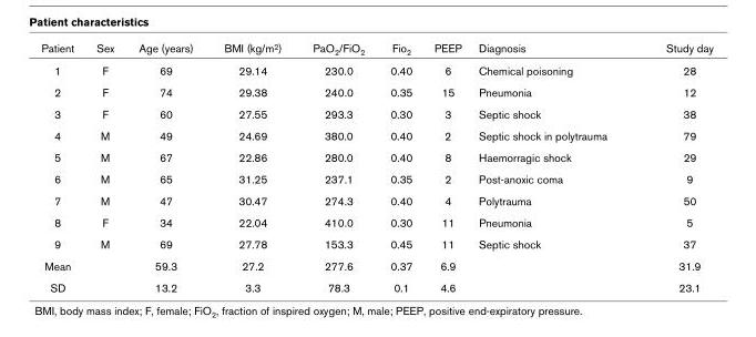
<table><thead><tr><td>Patient</td><td>Sex</td><td>Age (years)</td><td>BMI (kg/m2)</td><td>PaO2/FiO2</td><td>Fio2</td><td>PEEP</td><td>Diagnosis</td><td>Study day</td></tr></thead><tbody><tr><td>1</td><td>F</td><td>69</td><td>29.14</td><td>230.0</td><td>0.40</td><td>6</td><td>Chemical poisoning</td><td>28</td></tr><tr><td>2</td><td>F</td><td>74</td><td>29.38</td><td>240.0</td><td>0.35</td><td>15</td><td>Pneumonia</td><td>12</td></tr><tr><td>3</td><td>F</td><td>60</td><td>27.55</td><td>293.3</td><td>0.30</td><td>3</td><td>Septic shock</td><td>38</td></tr><tr><td>4</td><td>M</td><td>49</td><td>24.69</td><td>380.0</td><td>0.40</td><td>2</td><td>Septic shock in polytrauma</td><td>79</td></tr><tr><td>5</td><td>M</td><td>67</td><td>22.86</td><td>280.0</td><td>0.40</td><td>8</td><td>Haemorragic shock</td><td>29</td></tr><tr><td>6</td><td>M</td><td>65</td><td>31.25</td><td>237.1</td><td>0.35</td><td>2</td><td>Post-anoxic coma</td><td>9</td></tr><tr><td>7</td><td>M</td><td>47</td><td>30.47</td><td>274.3</td><td>0.40</td><td>4</td><td>Polytrauma</td><td>50</td></tr><tr><td>8</td><td>F</td><td>34</td><td>22.04</td><td>410.0</td><td>0.30</td><td>11</td><td>Pneumonia</td><td>5</td></tr><tr><td>9</td><td>M</td><td>69</td><td>27.78</td><td>153.3</td><td>0.45</td><td>11</td><td>Septic shock</td><td>37</td></tr><tr><td>Mean</td><td></td><td>59.3</td><td>27.2</td><td>277.6</td><td>0.37</td><td>6.9</td><td></td><td>31.9</td></tr><tr><td>SD</td><td></td><td>13.2</td><td>3.3</td><td>78.3</td><td>0.1</td><td>4.6</td><td></td><td>23.1</td></tr></tbody></table>